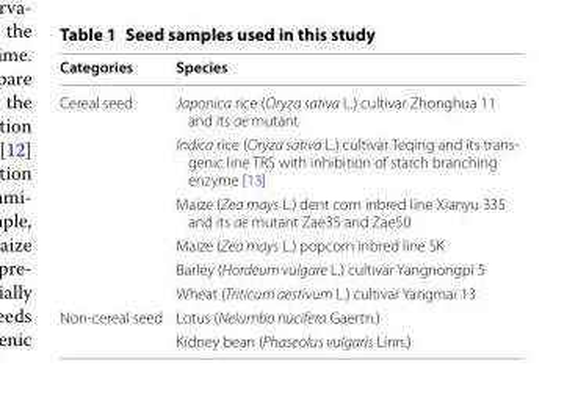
<table><thead><tr><td>Categories</td><td>Species</td></tr></thead><tbody><tr><td rowspan="6">Cereal seed</td><td>Japonica rice (Oryza sativa L.) cultivar Zhonghua 11 and its ae mutant</td></tr><tr><td>Indica rice (Oryza sativa L.) cultivar Teqing and its trans- genic line TRS with inhibition of starch branching enzyme [13]</td></tr><tr><td>Maize (Zea mays L.) dent corn inbred line Xianyu 335 and its ae mutant Zae35 and Zae50</td></tr><tr><td>Maize (Zea mays L.) popcorn inbred line SK</td></tr><tr><td>Barley (Hordeum vulgare L.) cultivar Yangnongpi 5</td></tr><tr><td>Wheat (Triticum aestivum L.) cultivar Yangmai 13</td></tr><tr><td rowspan="2">Non-cereal seed</td><td>Lotus (Nelumbo nucifera Gaertn.)</td></tr><tr><td>Kidney bean (Phaseolus vulgaris Linn.)</td></tr></tbody></table>